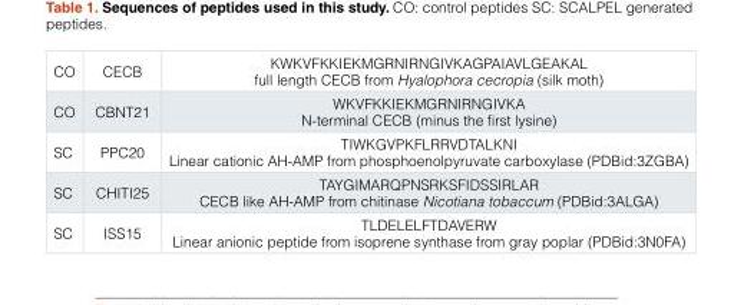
<table><tbody><tr><td>CO</td><td>CECB</td><td>KWKVFKKIEKMGRNIRNGIVKAGPAIAVLGEAKAL full length CECB from Hyalophora cecropia (silk moth)</td></tr><tr><td>CO</td><td>CBNT21</td><td>WKVFKKIEKMGRNIRNGIVKA N-terminal CECB (minus the first lysine)</td></tr><tr><td>SC</td><td>PPC20</td><td>TIWKGVPKFLRRVDTALKNI Linear cationic AH-AMP from phosphoenolpyruvate carboxylase (PDBid:3ZGBA)</td></tr><tr><td>SC</td><td>CHITI25</td><td>TAYGIMARQPNSRKSFIDSSIRLAR CECB like AH-AMP from chitinase Nicotiana tobaccum (PDBid:3ALGA)</td></tr><tr><td>SC</td><td>ISS15</td><td>TLDELELFTDAVERW Linear anionic peptide from isoprene synthase from gray poplar (PDBid:3N0FA)</td></tr></tbody></table>